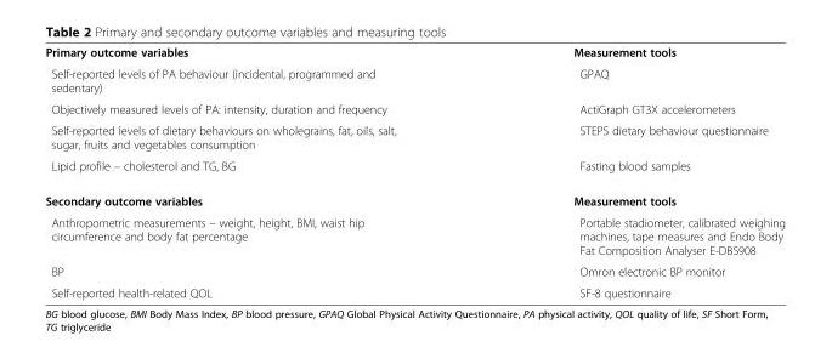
<table><tbody><tr><td>Primary outcome variables</td><td>Measurement tools</td></tr><tr><td>Self-reported levels of PA behaviour (incidental, programmed and sedentary)</td><td>GPAQ</td></tr><tr><td>Objectively measured levels of PA: intensity, duration and frequency</td><td>ActiGraph GT3X accelerometers</td></tr><tr><td>Self-reported levels of dietary behaviours on wholegrains, fat, oils, salt, sugar, fruits and vegetables consumption</td><td>STEPS dietary behaviour questionnaire</td></tr><tr><td>Lipid profile – cholesterol and TG, BG</td><td>Fasting blood samples</td></tr><tr><td>Secondary outcome variables</td><td>Measurement tools</td></tr><tr><td>Anthropometric measurements – weight, height, BMI, waist hip circumference and body fat percentage</td><td>Portable stadiometer, calibrated weighing machines, tape measures and Endo Body Fat Composition Analyser E-DBS908</td></tr><tr><td>BP</td><td>Omron electronic BP monitor</td></tr><tr><td>Self-reported health-related QOL</td><td>SF-8 questionnaire</td></tr></tbody></table>